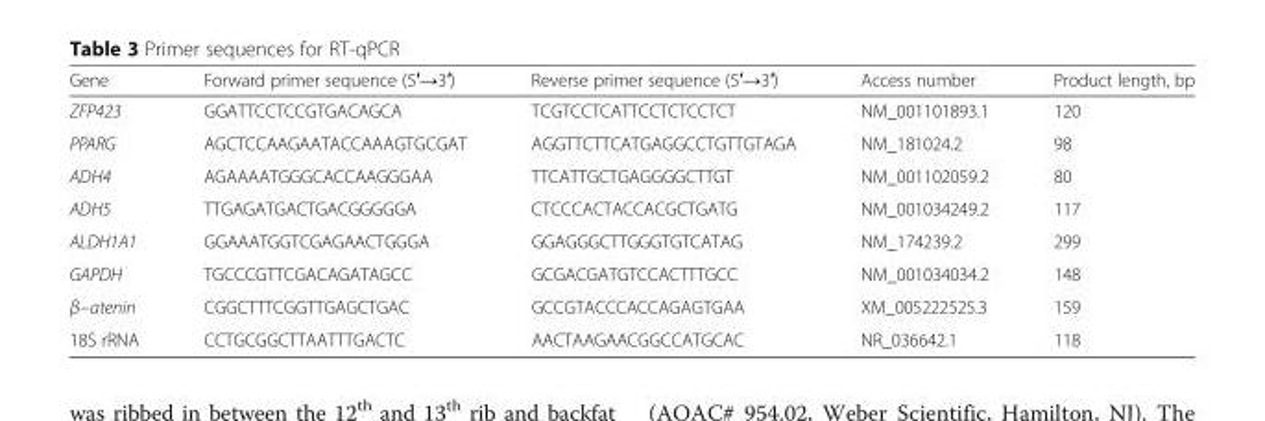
<table><thead><tr><td>Gene</td><td>Forward primer sequence (5′→3′)</td><td>Reverse primer sequence (5′→3′)</td><td>Access number</td><td>Product length, bp</td></tr></thead><tbody><tr><td>ZFP423</td><td>GGATTCCTCCGTGACAGCA</td><td>TCGTCCTCATTCCTCTCCTCT</td><td>NM_001101893.1</td><td>120</td></tr><tr><td>PPARG</td><td>AGCTCCAAGAATACCAAAGTGCGAT</td><td>AGGTTCTTCATGAGGCCTGTTGTAGA</td><td>NM_181024.2</td><td>98</td></tr><tr><td>ADH4</td><td>AGAAAATGGGCACCAAGGGAA</td><td>TTCATTGCTGAGGGGCTTGT</td><td>NM_001102059.2</td><td>80</td></tr><tr><td>ADH5</td><td>TTGAGATGACTGACGGGGGA</td><td>CTCCCACTACCACGCTGATG</td><td>NM_001034249.2</td><td>117</td></tr><tr><td>ALDH1A1</td><td>GGAAATGGTCGAGAACTGGGA</td><td>GGAGGGCTTGGGTGTCATAG</td><td>NM_174239.2</td><td>299</td></tr><tr><td>GAPDH</td><td>TGCCCGTTCGACAGATAGCC</td><td>GCGACGATGTCCACTTTGCC</td><td>NM_001034034.2</td><td>148</td></tr><tr><td>β−atenin</td><td>CGGCTTTCGGTTGAGCTGAC</td><td>GCCGTACCCACCAGAGTGAA</td><td>XM_005222525.3</td><td>159</td></tr><tr><td>18S rRNA</td><td>CCTGCGGCTTAATTTGACTC</td><td>AACTAAGAACGGCCATGCAC</td><td>NR_036642.1</td><td>118</td></tr></tbody></table>